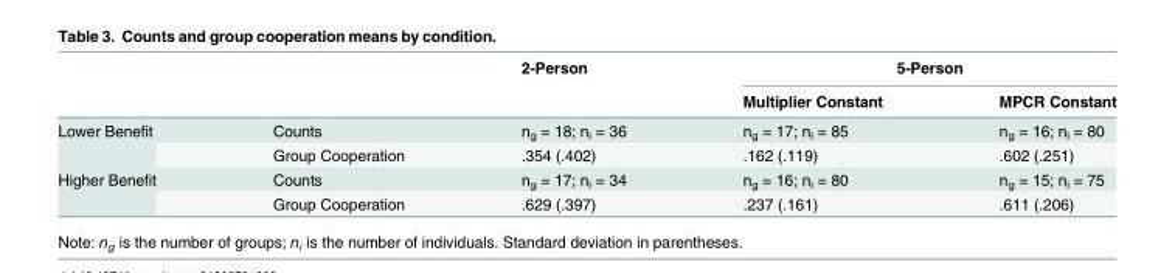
<table><thead><tr><td rowspan="2"></td><td rowspan="2"></td><td rowspan="2">2-Person</td><td colspan="2">5-Person</td></tr><tr><td>Multiplier Constant</td><td>MPCR Constant</td></tr></thead><tbody><tr><td rowspan="2">Lower Benefit</td><td>Counts</td><td>n<sub>g</sub> = 18; n<sub>i</sub> = 36</td><td>n<sub>g</sub> = 17; n<sub>i</sub> = 85</td><td>n<sub>g</sub> = 16; n<sub>i</sub> = 80</td></tr><tr><td>Group Cooperation</td><td>.354 (.402)</td><td>.162 (.119)</td><td>.602 (.251)</td></tr><tr><td rowspan="2">Higher Benefit</td><td>Counts</td><td>n<sub>g</sub> = 17; n<sub>i</sub> = 34</td><td>n<sub>g</sub> = 16; n<sub>i</sub> = 80</td><td>n<sub>g</sub> = 15; n<sub>i</sub> = 75</td></tr><tr><td>Group Cooperation</td><td>.629 (.397)</td><td>.237 (.161)</td><td>.611 (.206)</td></tr></tbody></table>